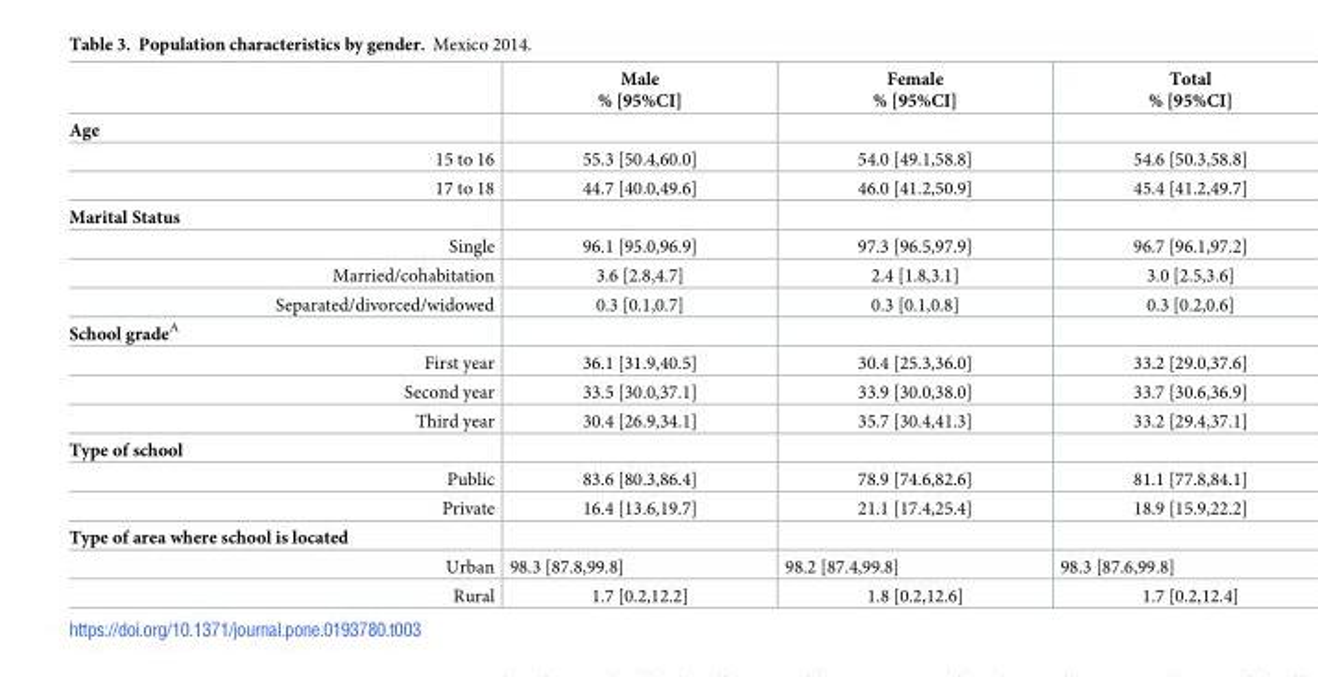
<table><thead><tr><td></td><td>Male % [95%CI]</td><td>Female % [95%CI]</td><td>Total % [95%CI]</td></tr></thead><tbody><tr><td colspan="4">Age</td></tr><tr><td>15 to 16</td><td>55.3 [50.4,60.0]</td><td>54.0 [49.1,58.8]</td><td>54.6 [50.3,58.8]</td></tr><tr><td>17 to 18</td><td>44.7 [40.0,49.6]</td><td>46.0 [41.2,50.9]</td><td>45.4 [41.2,49.7]</td></tr><tr><td colspan="4">Marital Status</td></tr><tr><td>Single</td><td>96.1 [95.0,96.9]</td><td>97.3 [96.5,97.9]</td><td>96.7 [96.1,97.2]</td></tr><tr><td>Married/cohabitation</td><td>3.6 [2.8,4.7]</td><td>2.4 [1.8,3.1]</td><td>3.0 [2.5,3.6]</td></tr><tr><td>Separated/divorced/widowed</td><td>0.3 [0.1,0.7]</td><td>0.3 [0.1,0.8]</td><td>0.3 [0.2,0.6]</td></tr><tr><td colspan="4">School grade<sup>A</sup></td></tr><tr><td>First year</td><td>36.1 [31.9,40.5]</td><td>30.4 [25.3,36.0]</td><td>33.2 [29.0,37.6]</td></tr><tr><td>Second year</td><td>33.5 [30.0,37.1]</td><td>33.9 [30.0,38.0]</td><td>33.7 [30.6,36.9]</td></tr><tr><td>Third year</td><td>30.4 [26.9,34.1]</td><td>35.7 [30.4,41.3]</td><td>33.2 [29.4,37.1]</td></tr><tr><td colspan="4">Type of school</td></tr><tr><td>Public</td><td>83.6 [80.3,86.4]</td><td>78.9 [74.6,82.6]</td><td>81.1 [77.8,84.1]</td></tr><tr><td>Private</td><td>16.4 [13.6,19.7]</td><td>21.1 [17.4,25.4]</td><td>18.9 [15.9,22.2]</td></tr><tr><td colspan="4">Type of area where school is located</td></tr><tr><td>Urban</td><td>98.3 [87.8,99.8]</td><td>98.2 [87.4,99.8]</td><td>98.3 [87.6,99.8]</td></tr><tr><td>Rural</td><td>1.7 [0.2,12.2]</td><td>1.8 [0.2,12.6]</td><td>1.7 [0.2,12.4]</td></tr></tbody></table>